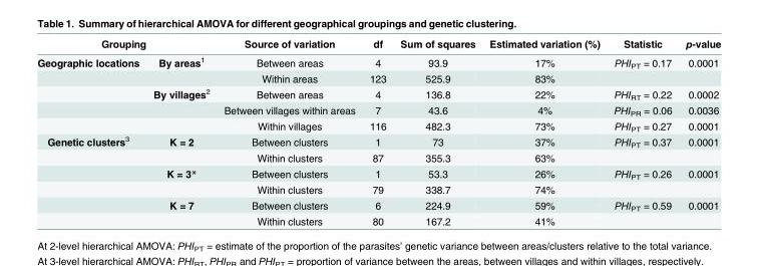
<table><thead><tr><td colspan="2">Grouping</td><td rowspan="2">Source of variation Between areas</td><td rowspan="2">df 4</td><td rowspan="2">Sum of squares 93.9</td><td rowspan="2">Estimated variation (%) 17%</td><td rowspan="2">Statistic PHI<sub>PT</sub> = 0.17</td><td rowspan="2">p-value 0.0001</td></tr><tr><td>Geographic locations</td><td>By areas<sup>1</sup></td></tr></thead><tbody><tr><td></td><td></td><td>Within areas</td><td>123</td><td>525.9</td><td>83%</td><td></td><td></td></tr><tr><td></td><td>By villages<sup>2</sup></td><td>Between areas</td><td>4</td><td>136.8</td><td>22%</td><td>PHI<sub>RT</sub> = 0.22</td><td>0.0002</td></tr><tr><td></td><td></td><td>Between villages within areas</td><td>7</td><td>43.6</td><td>4%</td><td>PHI<sub>PR</sub> = 0.06</td><td>0.0036</td></tr><tr><td></td><td></td><td>Within villages</td><td>116</td><td>482.3</td><td>73%</td><td>PHI<sub>PT</sub> = 0.27</td><td>0.0001</td></tr><tr><td rowspan="6">Genetic clusters<sup>3</sup></td><td>K = 2</td><td>Between clusters</td><td>1</td><td>73</td><td>37%</td><td>PHI<sub>PT</sub> = 0.37</td><td>0.0001</td></tr><tr><td></td><td>Within clusters</td><td>87</td><td>355.3</td><td>63%</td><td></td><td></td></tr><tr><td>K = 3*</td><td>Between clusters</td><td>1</td><td>53.3</td><td>26%</td><td>PHI<sub>PT</sub> = 0.26</td><td>0.0001</td></tr><tr><td></td><td>Within clusters</td><td>79</td><td>338.7</td><td>74%</td><td></td><td></td></tr><tr><td>K = 7</td><td>Between clusters</td><td>6</td><td>224.9</td><td>59%</td><td>PHI<sub>PT</sub> = 0.59</td><td>0.0001</td></tr><tr><td></td><td>Within clusters</td><td>80</td><td>167.2</td><td>41%</td><td></td><td></td></tr></tbody></table>